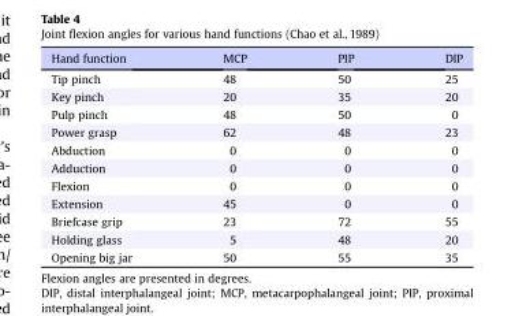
<table><thead><tr><td>Hand function</td><td>MCP</td><td>PIP</td><td>DIP</td></tr></thead><tbody><tr><td>Tip pinch</td><td>48</td><td>50</td><td>25</td></tr><tr><td>Key pinch</td><td>20</td><td>35</td><td>20</td></tr><tr><td>Pulp pinch</td><td>48</td><td>50</td><td>0</td></tr><tr><td>Power grasp</td><td>62</td><td>48</td><td>23</td></tr><tr><td>Abduction</td><td>0</td><td>0</td><td>0</td></tr><tr><td>Adduction</td><td>0</td><td>0</td><td>0</td></tr><tr><td>Flexion</td><td>0</td><td>0</td><td>0</td></tr><tr><td>Extension</td><td>45</td><td>0</td><td>0</td></tr><tr><td>Briefcase grip</td><td>23</td><td>72</td><td>55</td></tr><tr><td>Holding glass</td><td>5</td><td>48</td><td>20</td></tr><tr><td>Opening big jar</td><td>50</td><td>55</td><td>35</td></tr></tbody></table>